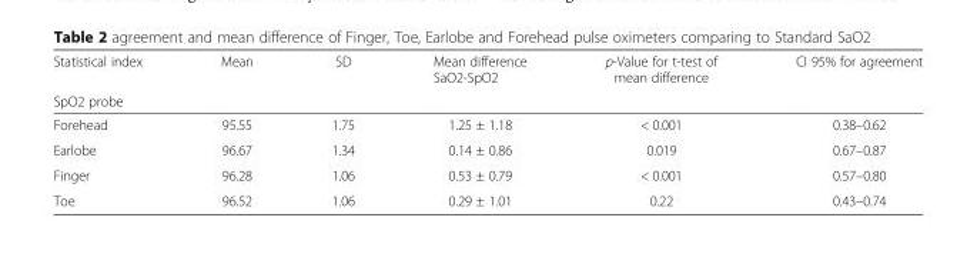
<table><thead><tr><td rowspan="2">Statistical index SpO2 probe</td><td rowspan="2">Mean</td><td rowspan="2">SD</td><td rowspan="2">Mean difference SaO2-SpO2</td><td rowspan="2">p-Value for t-test of mean difference</td><td rowspan="2">CI 95% for agreement</td></tr><tr></tr></thead><tbody><tr><td>Forehead</td><td>95.55</td><td>1.75</td><td>1.25 ± 1.18</td><td>&lt; 0.001</td><td>0.38–0.62</td></tr><tr><td>Earlobe</td><td>96.67</td><td>1.34</td><td>0.14 ± 0.86</td><td>0.019</td><td>0.67–0.87</td></tr><tr><td>Finger</td><td>96.28</td><td>1.06</td><td>0.53 ± 0.79</td><td>&lt; 0.001</td><td>0.57–0.80</td></tr><tr><td>Toe</td><td>96.52</td><td>1.06</td><td>0.29 ± 1.01</td><td>0.22</td><td>0.43–0.74</td></tr></tbody></table>